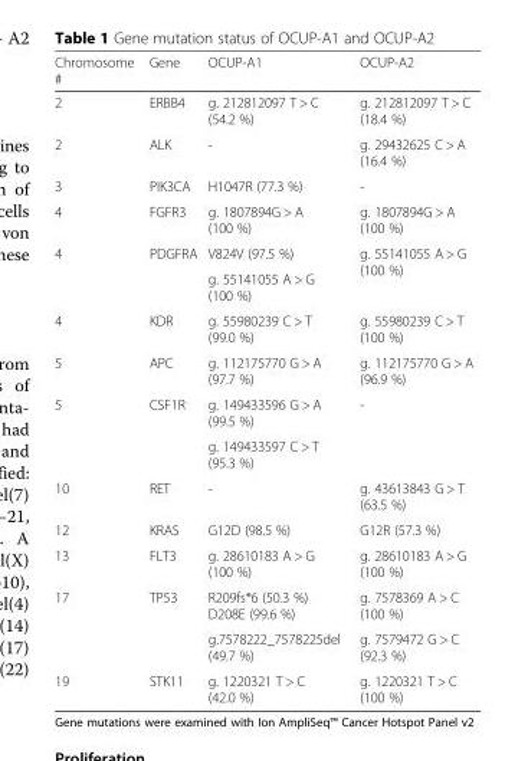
<table><thead><tr><td>Chromosome #</td><td>Gene</td><td>OCUP-A1</td><td>OCUP-A2</td></tr></thead><tbody><tr><td>2</td><td>ERBB4</td><td>g. 212812097 T &gt; C (54.2 %)</td><td>g. 212812097 T &gt; C (18.4 %)</td></tr><tr><td>2</td><td>ALK</td><td>-</td><td>g. 29432625 C &gt; A (16.4 %)</td></tr><tr><td>3</td><td>PIK3CA</td><td>H1047R (77.3 %)</td><td>-</td></tr><tr><td>4</td><td>FGFR3</td><td>g. 1807894G &gt; A (100 %)</td><td>g. 1807894G &gt; A (100 %)</td></tr><tr><td rowspan="2">4</td><td rowspan="2">PDGFRA</td><td>V824V (97.5 %)</td><td rowspan="2">g. 55141055 A &gt; G (100 %)</td></tr><tr><td>g. 55141055 A &gt; G (100 %)</td></tr><tr><td>4</td><td>KDR</td><td>g. 55980239 C &gt; T (99.0 %)</td><td>g. 55980239 C &gt; T (100 %)</td></tr><tr><td>5</td><td>APC</td><td>g. 112175770 G &gt; A (97.7 %)</td><td>g. 112175770 G &gt; A (96.9 %)</td></tr><tr><td rowspan="2">5</td><td rowspan="2">CSF1R</td><td>g. 149433596 G &gt; A (99.5 %)</td><td rowspan="2">-</td></tr><tr><td>g. 149433597 C &gt; T (95.3 %)</td></tr><tr><td>10</td><td>RET</td><td>-</td><td>g. 43613843 G &gt; T (63.5 %)</td></tr><tr><td>12</td><td>KRAS</td><td>G12D (98.5 %)</td><td>G12R (57.3 %)</td></tr><tr><td>13</td><td>FLT3</td><td>g. 28610183 A &gt; G (100 %)</td><td>g. 28610183 A &gt; G (100 %)</td></tr><tr><td rowspan="2">17</td><td rowspan="2">TP53</td><td>R209fs*6 (50.3 %) D208E (99.6 %)</td><td>g. 7578369 A &gt; C (100 %)</td></tr><tr><td>g.7578222_7578225del (49.7 %)</td><td>g. 7579472 G &gt; C (92.3 %)</td></tr><tr><td>19</td><td>STK11</td><td>g. 1220321 T &gt; C (42.0 %)</td><td>g. 1220321 T &gt; C (100 %)</td></tr></tbody></table>